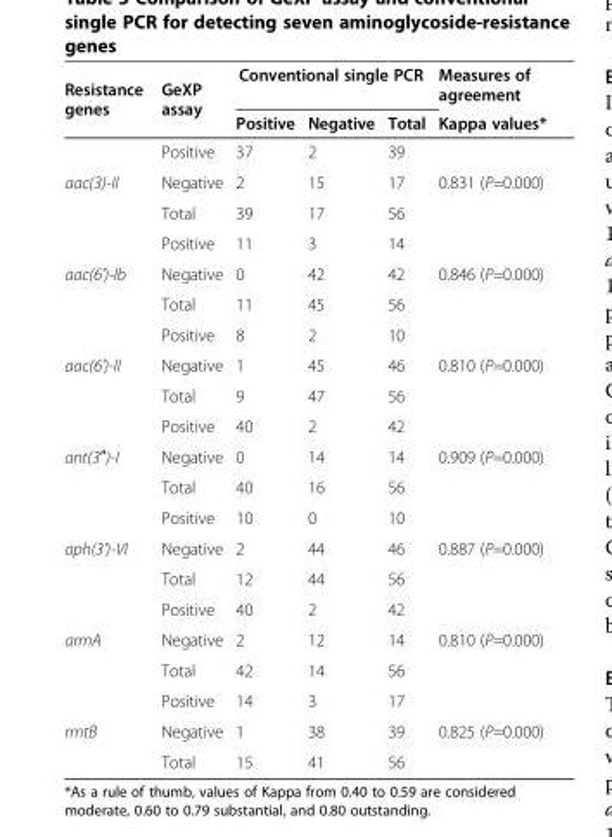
<table><thead><tr><td rowspan="2">Resistance genes</td><td rowspan="2">GeXP assay</td><td colspan="3">Conventional single PCR</td><td rowspan="2">Measures of agreement Kappa values*</td></tr><tr><td>Positive</td><td>Negative</td><td>Total</td></tr></thead><tbody><tr><td rowspan="3">aac(3)-II</td><td>Positive</td><td>37</td><td>2</td><td>39</td><td rowspan="3">0.831 (P=0.000)</td></tr><tr><td>Negative</td><td>2</td><td>15</td><td>17</td></tr><tr><td>Total</td><td>39</td><td>17</td><td>56</td></tr><tr><td rowspan="3">aac(6&#x27;)-Ib</td><td>Positive</td><td>11</td><td>3</td><td>14</td><td rowspan="3">0.846 (P=0.000)</td></tr><tr><td>Negative</td><td>0</td><td>42</td><td>42</td></tr><tr><td>Total</td><td>11</td><td>45</td><td>56</td></tr><tr><td rowspan="3">aac(6&#x27;)-II</td><td>Positive</td><td>8</td><td>2</td><td>10</td><td rowspan="3">0.810 (P=0.000)</td></tr><tr><td>Negative</td><td>1</td><td>45</td><td>46</td></tr><tr><td>Total</td><td>9</td><td>47</td><td>56</td></tr><tr><td rowspan="3">ant(3″)-I</td><td>Positive</td><td>40</td><td>2</td><td>42</td><td rowspan="3">0.909 (P=0.000)</td></tr><tr><td>Negative</td><td>0</td><td>14</td><td>14</td></tr><tr><td>Total</td><td>40</td><td>16</td><td>56</td></tr><tr><td rowspan="3">aph(3&#x27;)-VI</td><td>Positive</td><td>10</td><td>0</td><td>10</td><td rowspan="3">0.887 (P=0.000)</td></tr><tr><td>Negative</td><td>2</td><td>44</td><td>46</td></tr><tr><td>Total</td><td>12</td><td>44</td><td>56</td></tr><tr><td rowspan="3">armA</td><td>Positive</td><td>40</td><td>2</td><td>42</td><td rowspan="3">0.810 (P=0.000)</td></tr><tr><td>Negative</td><td>2</td><td>12</td><td>14</td></tr><tr><td>Total</td><td>42</td><td>14</td><td>56</td></tr><tr><td rowspan="3">rmtB</td><td>Positive</td><td>14</td><td>3</td><td>17</td><td rowspan="3">0.825 (P=0.000)</td></tr><tr><td>Negative</td><td>1</td><td>38</td><td>39</td></tr><tr><td>Total</td><td>15</td><td>41</td><td>56</td></tr></tbody></table>